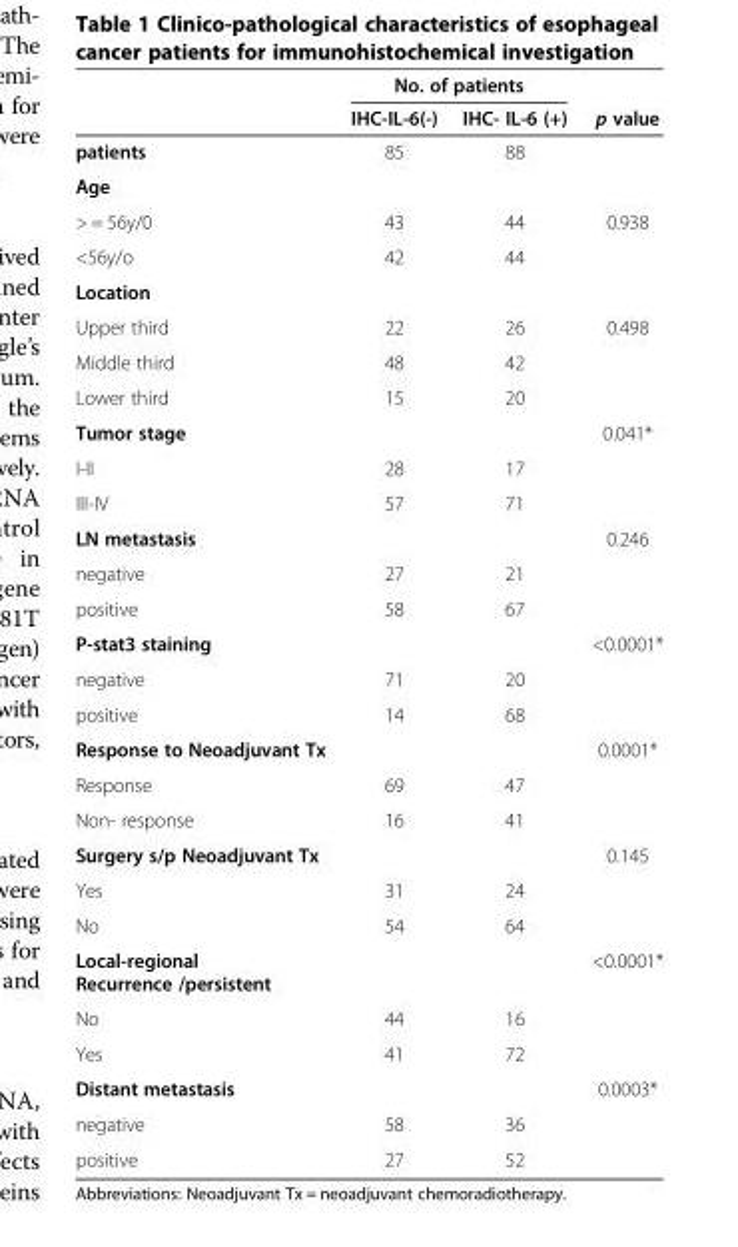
<table><thead><tr><td rowspan="2"></td><td colspan="2">No. of patients</td><td rowspan="2">p value</td></tr><tr><td>IHC-IL-6(-)</td><td>IHC- IL-6 (+)</td></tr></thead><tbody><tr><td>patients</td><td>85</td><td>88</td><td></td></tr><tr><td colspan="4">Age</td></tr><tr><td>&gt; = 56y/0</td><td>43</td><td>44</td><td>0.938</td></tr><tr><td>&lt;56y/o</td><td>42</td><td>44</td><td></td></tr><tr><td colspan="4">Location</td></tr><tr><td>Upper third</td><td>22</td><td>26</td><td>0.498</td></tr><tr><td>Middle third</td><td>48</td><td>42</td><td></td></tr><tr><td>Lower third</td><td>15</td><td>20</td><td></td></tr><tr><td>Tumor stage</td><td></td><td></td><td>0.041*</td></tr><tr><td>I-II</td><td>28</td><td>17</td><td></td></tr><tr><td>III-IV</td><td>57</td><td>71</td><td></td></tr><tr><td>LN metastasis</td><td></td><td></td><td>0.246</td></tr><tr><td>negative</td><td>27</td><td>21</td><td></td></tr><tr><td>positive</td><td>58</td><td>67</td><td></td></tr><tr><td>P-stat3 staining</td><td></td><td></td><td>&lt;0.0001*</td></tr><tr><td>negative</td><td>71</td><td>20</td><td></td></tr><tr><td>positive</td><td>14</td><td>68</td><td></td></tr><tr><td>Response to Neoadjuvant Tx</td><td></td><td></td><td>0.0001*</td></tr><tr><td>Response</td><td>69</td><td>47</td><td></td></tr><tr><td>Non- response</td><td>16</td><td>41</td><td></td></tr><tr><td>Surgery s/p Neoadjuvant Tx</td><td></td><td></td><td>0.145</td></tr><tr><td>Yes</td><td>31</td><td>24</td><td></td></tr><tr><td>No</td><td>54</td><td>64</td><td></td></tr><tr><td>Local-regional Recurrence /persistent</td><td></td><td></td><td>&lt;0.0001*</td></tr><tr><td>No</td><td>44</td><td>16</td><td></td></tr><tr><td>Yes</td><td>41</td><td>72</td><td></td></tr><tr><td>Distant metastasis</td><td></td><td></td><td>0.0003*</td></tr><tr><td>negative</td><td>58</td><td>36</td><td></td></tr><tr><td>positive</td><td>27</td><td>52</td><td></td></tr></tbody></table>